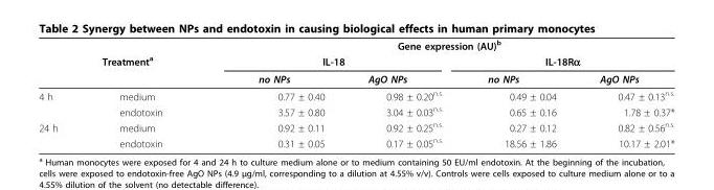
<table><thead><tr><td></td><td></td><td colspan="4">Gene expression (AU)<sup>b</sup></td></tr><tr><td colspan="2">Treatment<sup>a</sup></td><td colspan="2">IL-18</td><td colspan="2">IL-18Rα</td></tr><tr><td></td><td></td><td>no NPs</td><td>AgO NPs</td><td>no NPs</td><td>AgO NPs</td></tr></thead><tbody><tr><td rowspan="2">4 h</td><td>medium</td><td>0.77 ± 0.40</td><td>0.98 ± 0.20<sup>n.s.</sup></td><td>0.49 ± 0.04</td><td>0.47 ± 0.13<sup>n.s.</sup></td></tr><tr><td>endotoxin</td><td>3.57 ± 0.80</td><td>3.04 ± 0.03<sup>n.s.</sup></td><td>0.65 ± 0.16</td><td>1.78 ± 0.37*</td></tr><tr><td rowspan="2">24 h</td><td>medium</td><td>0.92 ± 0.11</td><td>0.92 ± 0.25<sup>n.s.</sup></td><td>0.27 ± 0.12</td><td>0.82 ± 0.56<sup>n.s.</sup></td></tr><tr><td>endotoxin</td><td>0.31 ± 0.05</td><td>0.17 ± 0.05<sup>n.s.</sup></td><td>18.56 ± 1.86</td><td>10.17 ± 2.01*</td></tr></tbody></table>